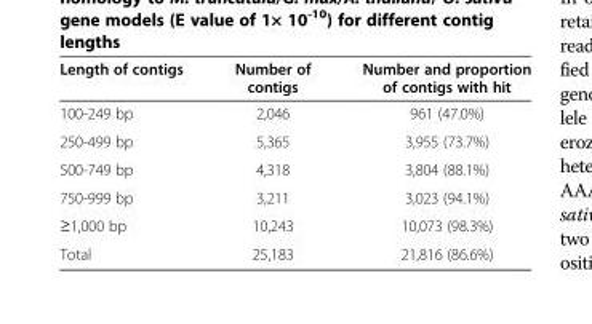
<table><thead><tr><td>Length of contigs</td><td>Number of contigs</td><td>Number and proportion of contigs with hit</td></tr></thead><tbody><tr><td>100-249 bp</td><td>2,046</td><td>961 (47.0%)</td></tr><tr><td>250-499 bp</td><td>5,365</td><td>3,955 (73.7%)</td></tr><tr><td>500-749 bp</td><td>4,318</td><td>3,804 (88.1%)</td></tr><tr><td>750-999 bp</td><td>3,211</td><td>3,023 (94.1%)</td></tr><tr><td>≥1,000 bp</td><td>10,243</td><td>10,073 (98.3%)</td></tr><tr><td>Total</td><td>25,183</td><td>21,816 (86.6%)</td></tr></tbody></table>